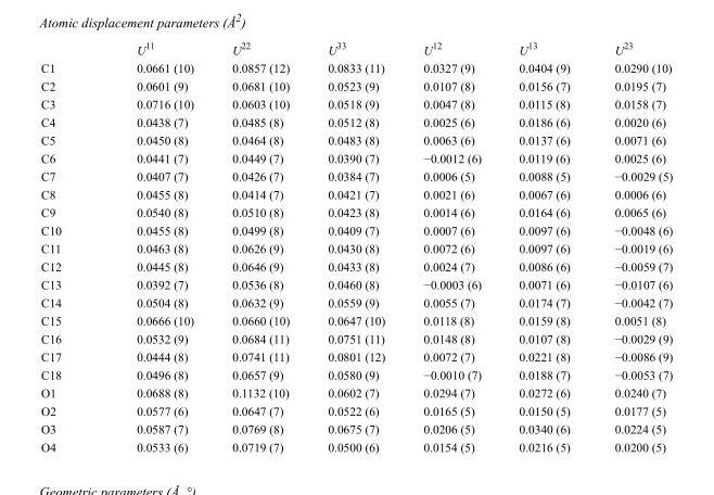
<table><thead><tr><td></td><td>U<sup>11</sup></td><td>U<sup>22</sup></td><td>U<sup>33</sup></td><td>U<sup>12</sup></td><td>U<sup>13</sup></td><td>U<sup>23</sup></td></tr></thead><tbody><tr><td>C1</td><td>0.0661 (10)</td><td>0.0857 (12)</td><td>0.0833 (11)</td><td>0.0327 (9)</td><td>0.0404 (9)</td><td>0.0290 (10)</td></tr><tr><td>C2</td><td>0.0601 (9)</td><td>0.0681 (10)</td><td>0.0523 (9)</td><td>0.0107 (8)</td><td>0.0156 (7)</td><td>0.0195 (7)</td></tr><tr><td>C3</td><td>0.0716 (10)</td><td>0.0603 (10)</td><td>0.0518 (9)</td><td>0.0047 (8)</td><td>0.0115 (8)</td><td>0.0158 (7)</td></tr><tr><td>C4</td><td>0.0438 (7)</td><td>0.0485 (8)</td><td>0.0512 (8)</td><td>0.0025 (6)</td><td>0.0186 (6)</td><td>0.0020 (6)</td></tr><tr><td>C5</td><td>0.0450 (8)</td><td>0.0464 (8)</td><td>0.0483 (8)</td><td>0.0063 (6)</td><td>0.0137 (6)</td><td>0.0071 (6)</td></tr><tr><td>C6</td><td>0.0441 (7)</td><td>0.0449 (7)</td><td>0.0390 (7)</td><td>−0.0012 (6)</td><td>0.0119 (6)</td><td>0.0025 (6)</td></tr><tr><td>C7</td><td>0.0407 (7)</td><td>0.0426 (7)</td><td>0.0384 (7)</td><td>0.0006 (5)</td><td>0.0088 (5)</td><td>−0.0029 (5)</td></tr><tr><td>C8</td><td>0.0455 (8)</td><td>0.0414 (7)</td><td>0.0421 (7)</td><td>0.0021 (6)</td><td>0.0067 (6)</td><td>0.0006 (6)</td></tr><tr><td>C9</td><td>0.0540 (8)</td><td>0.0510 (8)</td><td>0.0423 (8)</td><td>0.0014 (6)</td><td>0.0164 (6)</td><td>0.0065 (6)</td></tr><tr><td>C10</td><td>0.0455 (8)</td><td>0.0499 (8)</td><td>0.0409 (7)</td><td>0.0007 (6)</td><td>0.0097 (6)</td><td>−0.0048 (6)</td></tr><tr><td>C11</td><td>0.0463 (8)</td><td>0.0626 (9)</td><td>0.0430 (8)</td><td>0.0072 (6)</td><td>0.0097 (6)</td><td>−0.0019 (6)</td></tr><tr><td>C12</td><td>0.0445 (8)</td><td>0.0646 (9)</td><td>0.0433 (8)</td><td>0.0024 (7)</td><td>0.0086 (6)</td><td>−0.0059 (7)</td></tr><tr><td>C13</td><td>0.0392 (7)</td><td>0.0536 (8)</td><td>0.0460 (8)</td><td>−0.0003 (6)</td><td>0.0071 (6)</td><td>−0.0107 (6)</td></tr><tr><td>C14</td><td>0.0504 (8)</td><td>0.0632 (9)</td><td>0.0559 (9)</td><td>0.0055 (7)</td><td>0.0174 (7)</td><td>−0.0042 (7)</td></tr><tr><td>C15</td><td>0.0666 (10)</td><td>0.0660 (10)</td><td>0.0647 (10)</td><td>0.0118 (8)</td><td>0.0159 (8)</td><td>0.0051 (8)</td></tr><tr><td>C16</td><td>0.0532 (9)</td><td>0.0684 (11)</td><td>0.0751 (11)</td><td>0.0148 (8)</td><td>0.0107 (8)</td><td>−0.0029 (9)</td></tr><tr><td>C17</td><td>0.0444 (8)</td><td>0.0741 (11)</td><td>0.0801 (12)</td><td>0.0072 (7)</td><td>0.0221 (8)</td><td>−0.0086 (9)</td></tr><tr><td>C18</td><td>0.0496 (8)</td><td>0.0657 (9)</td><td>0.0580 (9)</td><td>−0.0010 (7)</td><td>0.0188 (7)</td><td>−0.0053 (7)</td></tr><tr><td>O1</td><td>0.0688 (8)</td><td>0.1132 (10)</td><td>0.0602 (7)</td><td>0.0294 (7)</td><td>0.0272 (6)</td><td>0.0240 (7)</td></tr><tr><td>O2</td><td>0.0577 (6)</td><td>0.0647 (7)</td><td>0.0522 (6)</td><td>0.0165 (5)</td><td>0.0150 (5)</td><td>0.0177 (5)</td></tr><tr><td>O3</td><td>0.0587 (7)</td><td>0.0769 (8)</td><td>0.0675 (7)</td><td>0.0206 (5)</td><td>0.0340 (6)</td><td>0.0224 (5)</td></tr><tr><td>O4</td><td>0.0533 (6)</td><td>0.0719 (7)</td><td>0.0500 (6)</td><td>0.0154 (5)</td><td>0.0216 (5)</td><td>0.0200 (5)</td></tr></tbody></table>